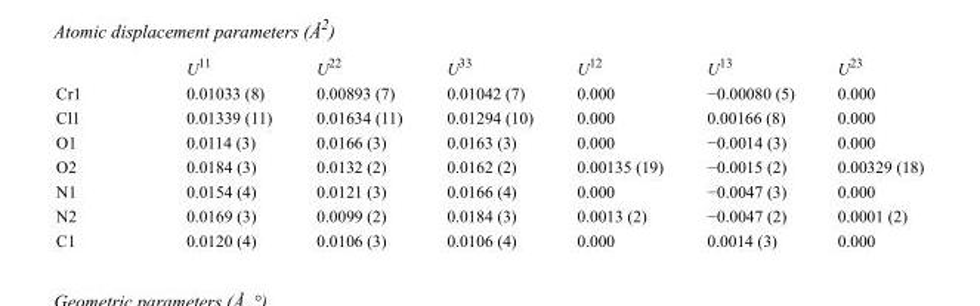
<table><thead><tr><td></td><td>U<sup>11</sup></td><td>U<sup>22</sup></td><td>U<sup>33</sup></td><td>U<sup>12</sup></td><td>U<sup>13</sup></td><td>U<sup>23</sup></td></tr></thead><tbody><tr><td>Cr1</td><td>0.01033 (8)</td><td>0.00893 (7)</td><td>0.01042 (7)</td><td>0.000</td><td>−0.00080 (5)</td><td>0.000</td></tr><tr><td>Cl1</td><td>0.01339 (11)</td><td>0.01634 (11)</td><td>0.01294 (10)</td><td>0.000</td><td>0.00166 (8)</td><td>0.000</td></tr><tr><td>O1</td><td>0.0114 (3)</td><td>0.0166 (3)</td><td>0.0163 (3)</td><td>0.000</td><td>−0.0014 (3)</td><td>0.000</td></tr><tr><td>O2</td><td>0.0184 (3)</td><td>0.0132 (2)</td><td>0.0162 (2)</td><td>0.00135 (19)</td><td>−0.0015 (2)</td><td>0.00329 (18)</td></tr><tr><td>N1</td><td>0.0154 (4)</td><td>0.0121 (3)</td><td>0.0166 (4)</td><td>0.000</td><td>−0.0047 (3)</td><td>0.000</td></tr><tr><td>N2</td><td>0.0169 (3)</td><td>0.0099 (2)</td><td>0.0184 (3)</td><td>0.0013 (2)</td><td>−0.0047 (2)</td><td>0.0001 (2)</td></tr><tr><td>C1</td><td>0.0120 (4)</td><td>0.0106 (3)</td><td>0.0106 (4)</td><td>0.000</td><td>0.0014 (3)</td><td>0.000</td></tr></tbody></table>